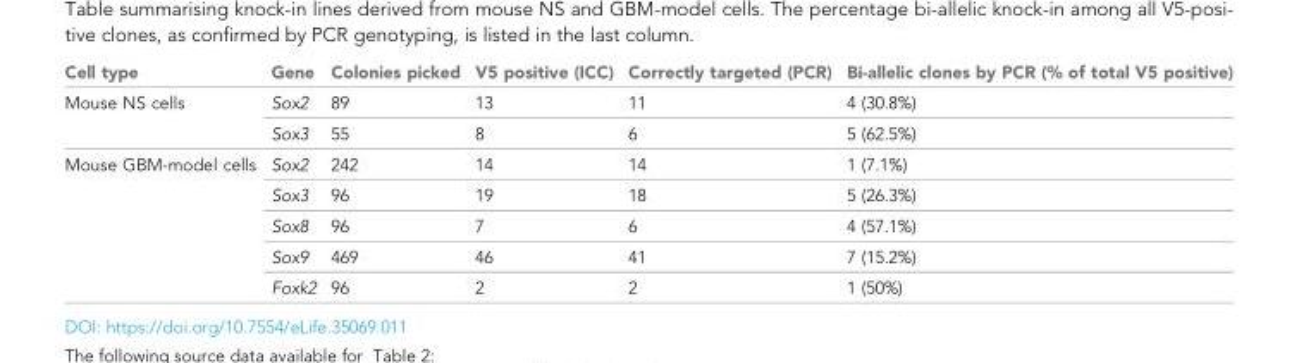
<table><thead><tr><td>Cell type</td><td>Gene</td><td>Colonies picked</td><td>V5 positive (ICC)</td><td>Correctly targeted (PCR)</td><td>Bi-allelic clones by PCR (% of total V5 positive)</td></tr></thead><tbody><tr><td rowspan="2">Mouse NS cells</td><td>Sox2</td><td>89</td><td>13</td><td>11</td><td>4 (30.8%)</td></tr><tr><td>Sox3</td><td>55</td><td>8</td><td>6</td><td>5 (62.5%)</td></tr><tr><td rowspan="5">Mouse GBM-model cells</td><td>Sox2</td><td>242</td><td>14</td><td>14</td><td>1 (7.1%)</td></tr><tr><td>Sox3</td><td>96</td><td>19</td><td>18</td><td>5 (26.3%)</td></tr><tr><td>Sox8</td><td>96</td><td>7</td><td>6</td><td>4 (57.1%)</td></tr><tr><td>Sox9</td><td>469</td><td>46</td><td>41</td><td>7 (15.2%)</td></tr><tr><td>Foxk2</td><td>96</td><td>2</td><td>2</td><td>1 (50%)</td></tr></tbody></table>